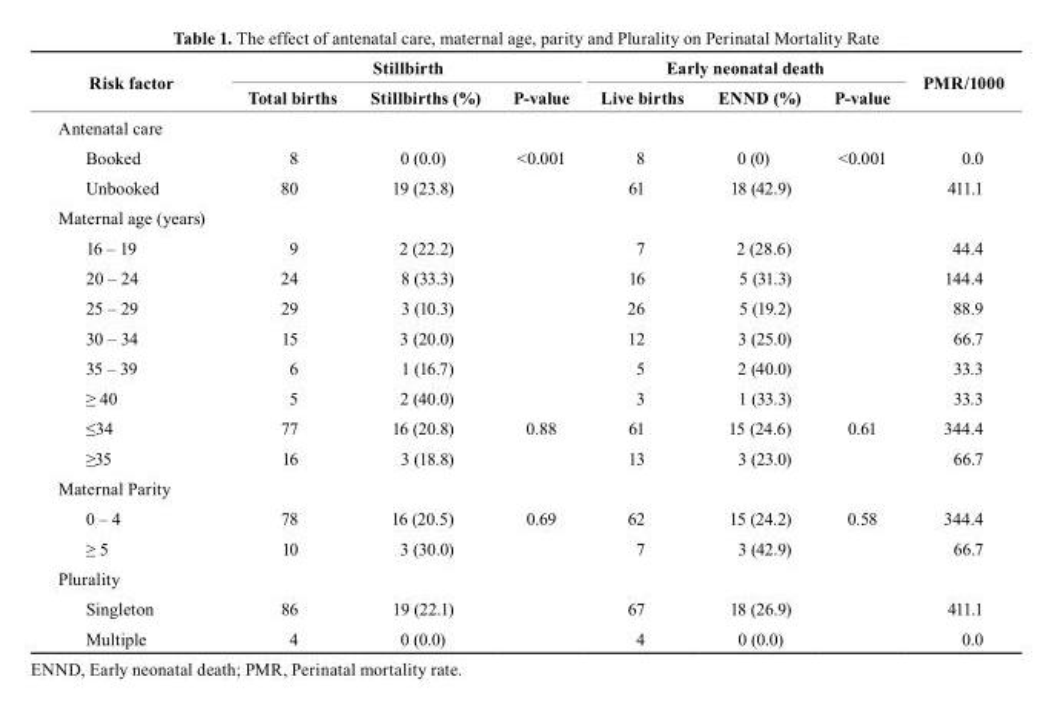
<table><thead><tr><td rowspan="2">risk factor</td><td colspan="3">stillbirth</td><td colspan="3">Early neonatal death</td><td rowspan="2">PMr/1000</td></tr><tr><td>total births</td><td>stillbirths (%)</td><td>P-value</td><td>live births</td><td>ENND (%)</td><td>P-value</td></tr></thead><tbody><tr><td colspan="8">Antenatal care</td></tr><tr><td>Booked</td><td>8</td><td>0 (0.0)</td><td>&lt;0.001</td><td>8</td><td>0 (0)</td><td>&lt;0.001</td><td>0.0</td></tr><tr><td>Unbooked</td><td>80</td><td>19 (23.8)</td><td></td><td>61</td><td>18 (42.9)</td><td></td><td>411.1</td></tr><tr><td colspan="8">Maternal age (years)</td></tr><tr><td>16 – 19</td><td>9</td><td>2 (22.2)</td><td></td><td>7</td><td>2 (28.6)</td><td></td><td>44.4</td></tr><tr><td>20 – 24</td><td>24</td><td>8 (33.3)</td><td></td><td>16</td><td>5 (31.3)</td><td></td><td>144.4</td></tr><tr><td>25 – 29</td><td>29</td><td>3 (10.3)</td><td></td><td>26</td><td>5 (19.2)</td><td></td><td>88.9</td></tr><tr><td>30 – 34</td><td>15</td><td>3 (20.0)</td><td></td><td>12</td><td>3 (25.0)</td><td></td><td>66.7</td></tr><tr><td>35 – 39</td><td>6</td><td>1 (16.7)</td><td></td><td>5</td><td>2 (40.0)</td><td></td><td>33.3</td></tr><tr><td>≥ 40</td><td>5</td><td>2 (40.0)</td><td></td><td>3</td><td>1 (33.3)</td><td></td><td>33.3</td></tr><tr><td>≤34</td><td>77</td><td>16 (20.8)</td><td>0.88</td><td>61</td><td>15 (24.6)</td><td>0.61</td><td>344.4</td></tr><tr><td>≥35</td><td>16</td><td>3 (18.8)</td><td></td><td>13</td><td>3 (23.0)</td><td></td><td>66.7</td></tr><tr><td colspan="8">Maternal Parity</td></tr><tr><td>0 – 4</td><td>78</td><td>16 (20.5)</td><td>0.69</td><td>62</td><td>15 (24.2)</td><td>0.58</td><td>344.4</td></tr><tr><td>≥ 5</td><td>10</td><td>3 (30.0)</td><td></td><td>7</td><td>3 (42.9)</td><td></td><td>66.7</td></tr><tr><td colspan="8">Plurality</td></tr><tr><td>Singleton</td><td>86</td><td>19 (22.1)</td><td></td><td>67</td><td>18 (26.9)</td><td></td><td>411.1</td></tr><tr><td>Multiple</td><td>4</td><td>0 (0.0)</td><td></td><td>4</td><td>0 (0.0)</td><td></td><td>0.0</td></tr></tbody></table>